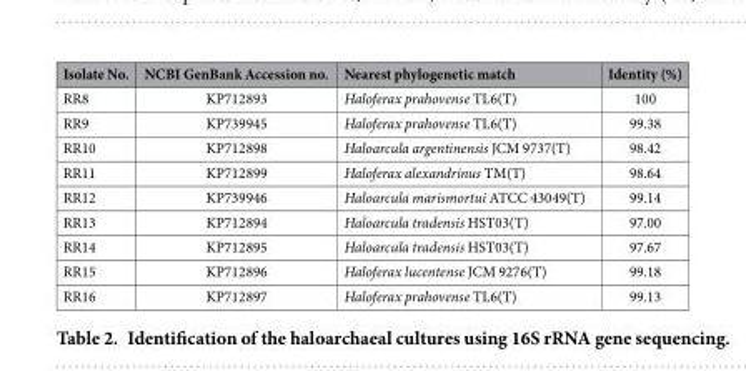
<table><thead><tr><td>Isolate No.</td><td>NCBI GenBank Accession no.</td><td>Nearest phylogenetic match</td><td>Identity (%)</td></tr></thead><tbody><tr><td>RR8</td><td>KP712893</td><td>Haloferax prahovense TL6(T)</td><td>100</td></tr><tr><td>RR9</td><td>KP739945</td><td>Haloferax prahovense TL6(T)</td><td>99.38</td></tr><tr><td>RR10</td><td>KP712898</td><td>Haloarcula argentinensis JCM 9737(T)</td><td>98.42</td></tr><tr><td>RR11</td><td>KP712899</td><td>Haloferax alexandrinus TM(T)</td><td>98.64</td></tr><tr><td>RR12</td><td>KP739946</td><td>Haloarcula marismortui ATCC 43049(T)</td><td>99.14</td></tr><tr><td>RR13</td><td>KP712894</td><td>Haloarcula tradensis HST03(T)</td><td>97.00</td></tr><tr><td>RR14</td><td>KP712895</td><td>Haloarcula tradensis HST03(T)</td><td>97.67</td></tr><tr><td>RR15</td><td>KP712896</td><td>Haloferax lucentense JCM 9276(T)</td><td>99.18</td></tr><tr><td>RR16</td><td>KP712897</td><td>Haloferax prahovense TL6(T)</td><td>99.13</td></tr></tbody></table>